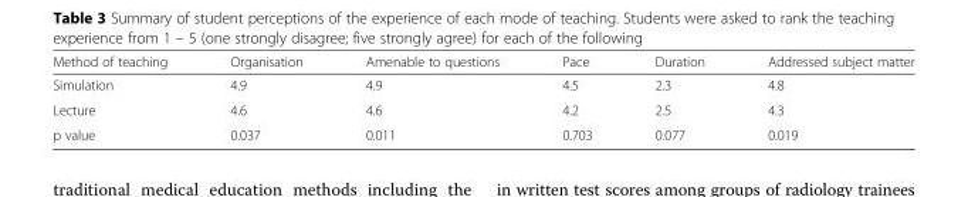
<table><thead><tr><td>Method of teaching</td><td>Organisation</td><td>Amenable to questions</td><td>Pace</td><td>Duration</td><td>Addressed subject matter</td></tr></thead><tbody><tr><td>Simulation</td><td>4.9</td><td>4.9</td><td>4.5</td><td>2.3</td><td>4.8</td></tr><tr><td>Lecture</td><td>4.6</td><td>4.6</td><td>4.2</td><td>2.5</td><td>4.3</td></tr><tr><td>p value</td><td>0.037</td><td>0.011</td><td>0.703</td><td>0.077</td><td>0.019</td></tr></tbody></table>